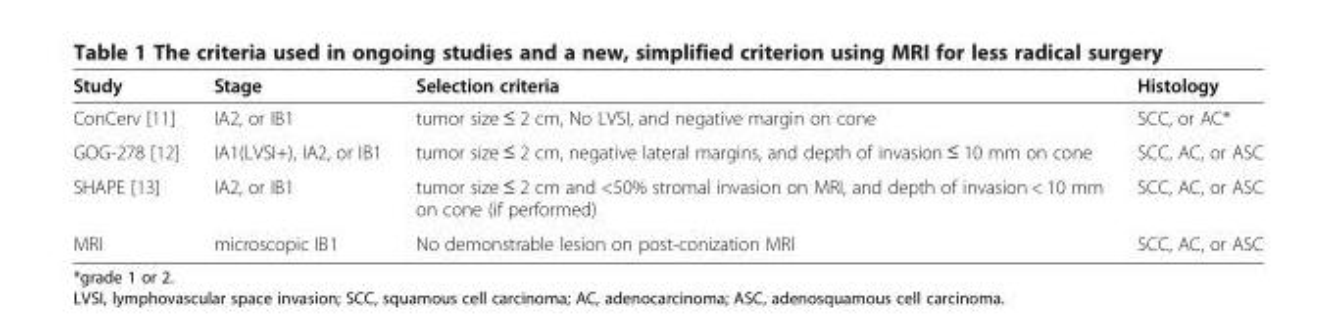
<table><thead><tr><td>Study</td><td>Stage</td><td>Selection criteria</td><td>Histology</td></tr></thead><tbody><tr><td>ConCerv [11]</td><td>IA2, or IB1</td><td>tumor size ≤ 2 cm, No LVSI, and negative margin on cone</td><td>SCC, or AC*</td></tr><tr><td>GOG-278 [12]</td><td>IA1(LVSI+), IA2, or IB1</td><td>tumor size ≤ 2 cm, negative lateral margins, and depth of invasion ≤ 10 mm on cone</td><td>SCC, AC, or ASC</td></tr><tr><td>SHAPE [13]</td><td>IA2, or IB1</td><td>tumor size ≤ 2 cm and &lt;50% stromal invasion on MRI, and depth of invasion &lt; 10 mm on cone (if performed)</td><td>SCC, AC, or ASC</td></tr><tr><td>MRI</td><td>microscopic IB1</td><td>No demonstrable lesion on post-conization MRI</td><td>SCC, AC, or ASC</td></tr></tbody></table>